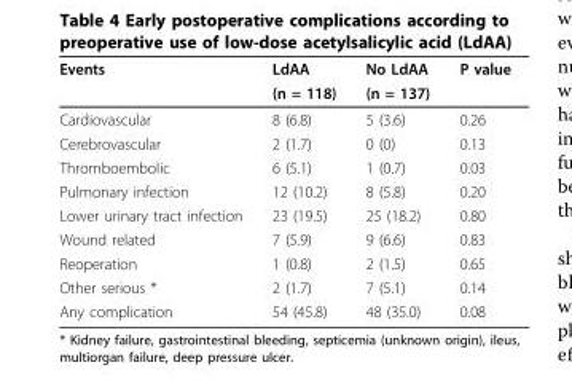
<table><thead><tr><td rowspan="2">Events</td><td rowspan="2">LdAA (n = 118)</td><td rowspan="2">No LdAA (n = 137)</td><td rowspan="2">P value</td></tr><tr></tr></thead><tbody><tr><td>Cardiovascular</td><td>8 (6.8)</td><td>5 (3.6)</td><td>0.26</td></tr><tr><td>Cerebrovascular</td><td>2 (1.7)</td><td>0 (0)</td><td>0.13</td></tr><tr><td>Thromboembolic</td><td>6 (5.1)</td><td>1 (0.7)</td><td>0.03</td></tr><tr><td>Pulmonary infection</td><td>12 (10.2)</td><td>8 (5.8)</td><td>0.20</td></tr><tr><td>Lower urinary tract infection</td><td>23 (19.5)</td><td>25 (18.2)</td><td>0.80</td></tr><tr><td>Wound related</td><td>7 (5.9)</td><td>9 (6.6)</td><td>0.83</td></tr><tr><td>Reoperation</td><td>1 (0.8)</td><td>2 (1.5)</td><td>0.65</td></tr><tr><td>Other serious *</td><td>2 (1.7)</td><td>7 (5.1)</td><td>0.14</td></tr><tr><td>Any complication</td><td>54 (45.8)</td><td>48 (35.0)</td><td>0.08</td></tr></tbody></table>